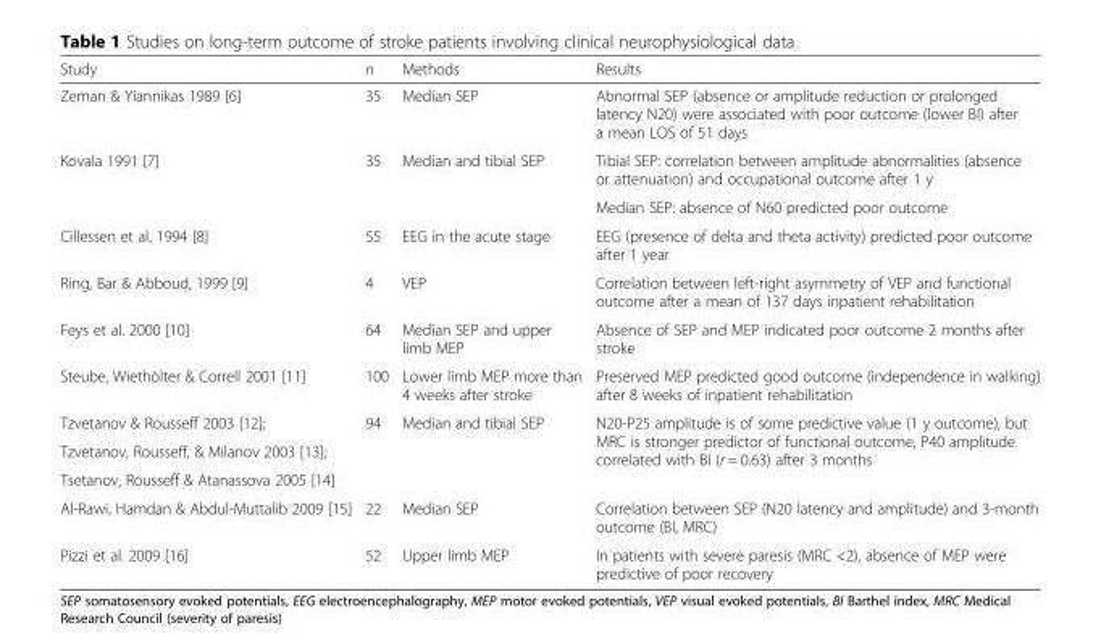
<table><thead><tr><td>Study</td><td>n</td><td>Methods</td><td>Results</td></tr></thead><tbody><tr><td>Zeman &amp; Yiannikas 1989 [6]</td><td>35</td><td>Median SEP</td><td>Abnormal SEP (absence or amplitude reduction or prolonged latency N20) were associated with poor outcome (lower BI) after a mean LOS of 51 days</td></tr><tr><td rowspan="2">Kovala 1991 [7]</td><td rowspan="2">35</td><td rowspan="2">Median and tibial SEP</td><td>Tibial SEP: correlation between amplitude abnormalities (absence or attenuation) and occupational outcome after 1 y</td></tr><tr><td>Median SEP: absence of N60 predicted poor outcome</td></tr><tr><td>Cillessen et al. 1994 [8]</td><td>55</td><td>EEG in the acute stage</td><td>EEG (presence of delta and theta activity) predicted poor outcome after 1 year</td></tr><tr><td>Ring, Bar &amp; Abboud, 1999 [9]</td><td>4</td><td>VEP</td><td>Correlation between left-right asymmetry of VEP and functional outcome after a mean of 137 days inpatient rehabilitation</td></tr><tr><td>Feys et al. 2000 [10]</td><td>64</td><td>Median SEP and upper limb MEP</td><td>Absence of SEP and MEP indicated poor outcome 2 months after stroke</td></tr><tr><td>Steube, Wiethölter &amp; Correll 2001 [11]</td><td>100</td><td>Lower limb MEP more than 4 weeks after stroke</td><td>Preserved MEP predicted good outcome (independence in walking) after 8 weeks of inpatient rehabilitation</td></tr><tr><td>Tzvetanov &amp; Rousseff 2003 [12];</td><td rowspan="3">94</td><td rowspan="3">Median and tibial SEP</td><td rowspan="3">N20-P25 amplitude is of some predictive value (1 y outcome), but MRC is stronger predictor of functional outcome, P40 amplitude correlated with BI (r = 0.63) after 3 months</td></tr><tr><td>Tzvetanov, Rousseff, &amp; Milanov 2003 [13];</td></tr><tr><td>Tsetanov, Rousseff &amp; Atanassova 2005 [14]</td></tr><tr><td>Al-Rawi, Hamdan &amp; Abdul-Muttalib 2009 [15]</td><td>22</td><td>Median SEP</td><td>Correlation between SEP (N20 latency and amplitude) and 3-month outcome (BI, MRC)</td></tr><tr><td>Pizzi et al. 2009 [16]</td><td>52</td><td>Upper limb MEP</td><td>In patients with severe paresis (MRC &lt;2), absence of MEP were predictive of poor recovery</td></tr></tbody></table>